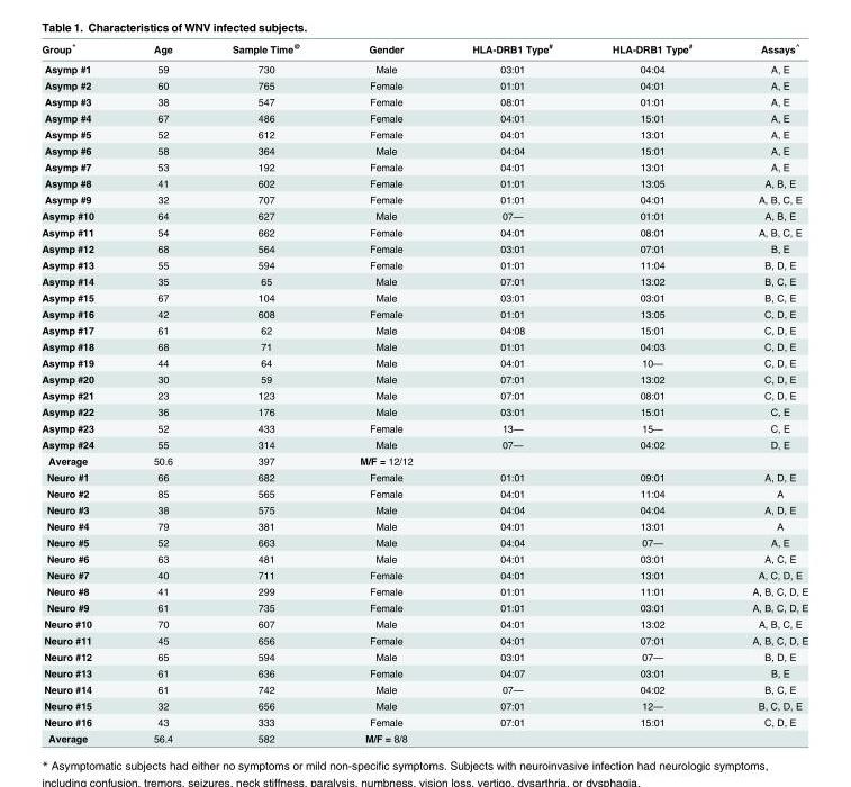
<table><thead><tr><td>Group*</td><td>Age</td><td>Sample Time<sup>@</sup></td><td>Gender</td><td>HLA-DRB1 Type<sup>#</sup></td><td>HLA-DRB1 Type<sup>#</sup></td><td>Assays<sup>^</sup></td></tr></thead><tbody><tr><td>Asymp #1</td><td>59</td><td>730</td><td>Male</td><td>03:01</td><td>04:04</td><td>A, E</td></tr><tr><td>Asymp #2</td><td>60</td><td>765</td><td>Female</td><td>01:01</td><td>04:01</td><td>A, E</td></tr><tr><td>Asymp #3</td><td>38</td><td>547</td><td>Female</td><td>08:01</td><td>01:01</td><td>A, E</td></tr><tr><td>Asymp #4</td><td>67</td><td>486</td><td>Female</td><td>04:01</td><td>15:01</td><td>A, E</td></tr><tr><td>Asymp #5</td><td>52</td><td>612</td><td>Female</td><td>04:01</td><td>13:01</td><td>A, E</td></tr><tr><td>Asymp #6</td><td>58</td><td>364</td><td>Male</td><td>04:04</td><td>15:01</td><td>A, E</td></tr><tr><td>Asymp #7</td><td>53</td><td>192</td><td>Female</td><td>04:01</td><td>13:01</td><td>A, E</td></tr><tr><td>Asymp #8</td><td>41</td><td>602</td><td>Female</td><td>01:01</td><td>13:05</td><td>A, B, E</td></tr><tr><td>Asymp #9</td><td>32</td><td>707</td><td>Female</td><td>01:01</td><td>04:01</td><td>A, B, C, E</td></tr><tr><td>Asymp #10</td><td>64</td><td>627</td><td>Male</td><td>07—</td><td>01:01</td><td>A, B, E</td></tr><tr><td>Asymp #11</td><td>54</td><td>662</td><td>Female</td><td>04:01</td><td>08:01</td><td>A, B, C, E</td></tr><tr><td>Asymp #12</td><td>68</td><td>564</td><td>Female</td><td>03:01</td><td>07:01</td><td>B, E</td></tr><tr><td>Asymp #13</td><td>55</td><td>594</td><td>Female</td><td>01:01</td><td>11:04</td><td>B, D, E</td></tr><tr><td>Asymp #14</td><td>35</td><td>65</td><td>Male</td><td>07:01</td><td>13:02</td><td>B, C, E</td></tr><tr><td>Asymp #15</td><td>67</td><td>104</td><td>Male</td><td>03:01</td><td>03:01</td><td>B, C, E</td></tr><tr><td>Asymp #16</td><td>42</td><td>608</td><td>Female</td><td>01:01</td><td>13:05</td><td>C, D, E</td></tr><tr><td>Asymp #17</td><td>61</td><td>62</td><td>Male</td><td>04:08</td><td>15:01</td><td>C, D, E</td></tr><tr><td>Asymp #18</td><td>68</td><td>71</td><td>Male</td><td>01:01</td><td>04:03</td><td>C, D, E</td></tr><tr><td>Asymp #19</td><td>44</td><td>64</td><td>Male</td><td>04:01</td><td>10—</td><td>C, D, E</td></tr><tr><td>Asymp #20</td><td>30</td><td>59</td><td>Male</td><td>07:01</td><td>13:02</td><td>C, D, E</td></tr><tr><td>Asymp #21</td><td>23</td><td>123</td><td>Male</td><td>07:01</td><td>08:01</td><td>C, D, E</td></tr><tr><td>Asymp #22</td><td>36</td><td>176</td><td>Male</td><td>03:01</td><td>15:01</td><td>C, E</td></tr><tr><td>Asymp #23</td><td>52</td><td>433</td><td>Female</td><td>13—</td><td>15—</td><td>C, E</td></tr><tr><td>Asymp #24</td><td>55</td><td>314</td><td>Male</td><td>07—</td><td>04:02</td><td>D, E</td></tr><tr><td>Average</td><td>50.6</td><td>397</td><td>M/F = 12/12</td><td></td><td></td><td></td></tr><tr><td>Neuro #1</td><td>66</td><td>682</td><td>Female</td><td>01:01</td><td>09:01</td><td>A, D, E</td></tr><tr><td>Neuro #2</td><td>85</td><td>565</td><td>Female</td><td>04:01</td><td>11:04</td><td>A</td></tr><tr><td>Neuro #3</td><td>38</td><td>575</td><td>Male</td><td>04:04</td><td>04:04</td><td>A, D, E</td></tr><tr><td>Neuro #4</td><td>79</td><td>381</td><td>Male</td><td>04:01</td><td>13:01</td><td>A</td></tr><tr><td>Neuro #5</td><td>52</td><td>663</td><td>Male</td><td>04:04</td><td>07—</td><td>A, E</td></tr><tr><td>Neuro #6</td><td>63</td><td>481</td><td>Male</td><td>04:01</td><td>03:01</td><td>A, C, E</td></tr><tr><td>Neuro #7</td><td>40</td><td>711</td><td>Female</td><td>04:01</td><td>13:01</td><td>A, C, D, E</td></tr><tr><td>Neuro #8</td><td>41</td><td>299</td><td>Female</td><td>01:01</td><td>11:01</td><td>A, B, C, D, E</td></tr><tr><td>Neuro #9</td><td>61</td><td>735</td><td>Female</td><td>01:01</td><td>03:01</td><td>A, B, C, D, E</td></tr><tr><td>Neuro #10</td><td>70</td><td>607</td><td>Male</td><td>04:01</td><td>13:02</td><td>A, B, C, E</td></tr><tr><td>Neuro #11</td><td>45</td><td>656</td><td>Female</td><td>04:01</td><td>07:01</td><td>A, B, C, D, E</td></tr><tr><td>Neuro #12</td><td>65</td><td>594</td><td>Male</td><td>03:01</td><td>07—</td><td>B, D, E</td></tr><tr><td>Neuro #13</td><td>61</td><td>636</td><td>Female</td><td>04:07</td><td>03:01</td><td>B, E</td></tr><tr><td>Neuro #14</td><td>61</td><td>742</td><td>Male</td><td>07—</td><td>04:02</td><td>B, C, E</td></tr><tr><td>Neuro #15</td><td>32</td><td>656</td><td>Male</td><td>07:01</td><td>12—</td><td>B, C, D, E</td></tr><tr><td>Neuro #16</td><td>43</td><td>333</td><td>Female</td><td>07:01</td><td>15:01</td><td>C, D, E</td></tr><tr><td>Average</td><td>56.4</td><td>582</td><td>M/F = 8/8</td><td></td><td></td><td></td></tr></tbody></table>